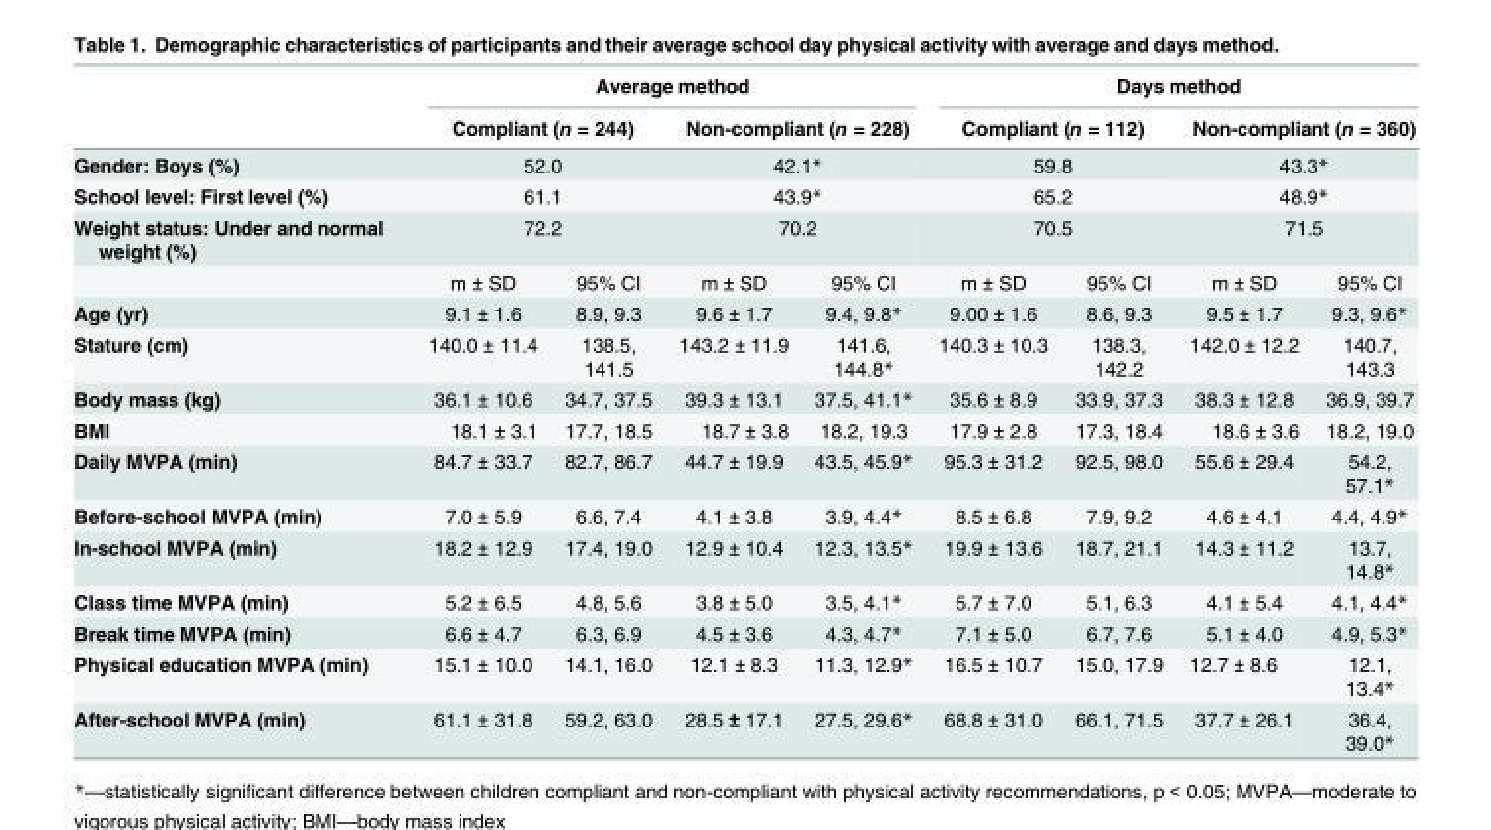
<table><thead><tr><td rowspan="2"></td><td colspan="4">Average method</td><td colspan="4">Days method</td></tr><tr><td colspan="2">Compliant (n = 244)</td><td colspan="2">Non-compliant (n = 228)</td><td colspan="2">Compliant (n = 112)</td><td colspan="2">Non-compliant (n = 360)</td></tr></thead><tbody><tr><td>Gender: Boys (%)</td><td colspan="2">52.0</td><td colspan="2">42.1*</td><td colspan="2">59.8</td><td colspan="2">43.3*</td></tr><tr><td>School level: First level (%)</td><td colspan="2">61.1</td><td colspan="2">43.9*</td><td colspan="2">65.2</td><td colspan="2">48.9*</td></tr><tr><td rowspan="2">Weight status: Under and normal weight (%)</td><td colspan="2">72.2</td><td colspan="2">70.2</td><td colspan="2">70.5</td><td colspan="2">71.5</td></tr><tr><td>m ± SD</td><td>95% CI</td><td>m ± SD</td><td>95% CI</td><td>m ± SD</td><td>95% CI</td><td>m ± SD</td><td>95% CI</td></tr><tr><td>Age (yr)</td><td>9.1 ± 1.6</td><td>8.9, 9.3</td><td>9.6 ± 1.7</td><td>9.4, 9.8*</td><td>9.00 ± 1.6</td><td>8.6, 9.3</td><td>9.5 ± 1.7</td><td>9.3, 9.6*</td></tr><tr><td>Stature (cm)</td><td>140.0 ± 11.4</td><td>138.5, 141.5</td><td>143.2 ± 11.9</td><td>141.6, 144.8*</td><td>140.3 ± 10.3</td><td>138.3, 142.2</td><td>142.0 ± 12.2</td><td>140.7, 143.3</td></tr><tr><td>Body mass (kg)</td><td>36.1 ± 10.6</td><td>34.7, 37.5</td><td>39.3 ± 13.1</td><td>37.5, 41.1*</td><td>35.6 ± 8.9</td><td>33.9, 37.3</td><td>38.3 ± 12.8</td><td>36.9, 39.7</td></tr><tr><td>BMI</td><td>18.1 ± 3.1</td><td>17.7, 18.5</td><td>18.7 ± 3.8</td><td>18.2, 19.3</td><td>17.9 ± 2.8</td><td>17.3, 18.4</td><td>18.6 ± 3.6</td><td>18.2, 19.0</td></tr><tr><td>Daily MVPA (min)</td><td>84.7 ± 33.7</td><td>82.7, 86.7</td><td>44.7 ± 19.9</td><td>43.5, 45.9*</td><td>95.3 ± 31.2</td><td>92.5, 98.0</td><td>55.6 ± 29.4</td><td>54.2, 57.1*</td></tr><tr><td>Before-school MVPA (min)</td><td>7.0 ± 5.9</td><td>6.6, 7.4</td><td>4.1 ± 3.8</td><td>3.9, 4.4*</td><td>8.5 ± 6.8</td><td>7.9, 9.2</td><td>4.6 ± 4.1</td><td>4.4, 4.9*</td></tr><tr><td>In-school MVPA (min)</td><td>18.2 ± 12.9</td><td>17.4, 19.0</td><td>12.9 ± 10.4</td><td>12.3, 13.5*</td><td>19.9 ± 13.6</td><td>18.7, 21.1</td><td>14.3 ± 11.2</td><td>13.7, 14.8*</td></tr><tr><td>Class time MVPA (min)</td><td>5.2 ± 6.5</td><td>4.8, 5.6</td><td>3.8 ± 5.0</td><td>3.5, 4.1*</td><td>5.7 ± 7.0</td><td>5.1, 6.3</td><td>4.1 ± 5.4</td><td>4.1, 4.4*</td></tr><tr><td>Break time MVPA (min)</td><td>6.6 ± 4.7</td><td>6.3, 6.9</td><td>4.5 ± 3.6</td><td>4.3, 4.7*</td><td>7.1 ± 5.0</td><td>6.7, 7.6</td><td>5.1 ± 4.0</td><td>4.9, 5.3*</td></tr><tr><td>Physical education MVPA (min)</td><td>15.1 ± 10.0</td><td>14.1, 16.0</td><td>12.1 ± 8.3</td><td>11.3, 12.9*</td><td>16.5 ± 10.7</td><td>15.0, 17.9</td><td>12.7 ± 8.6</td><td>12.1, 13.4*</td></tr><tr><td>After-school MVPA (min)</td><td>61.1 ± 31.8</td><td>59.2, 63.0</td><td>28.5 ± 17.1</td><td>27.5, 29.6*</td><td>68.8 ± 31.0</td><td>66.1, 71.5</td><td>37.7 ± 26.1</td><td>36.4, 39.0*</td></tr></tbody></table>